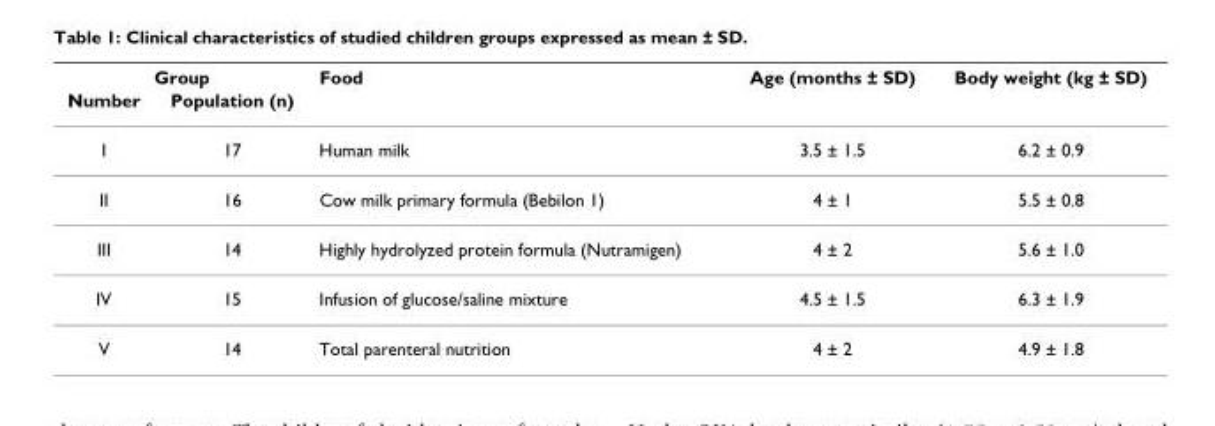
<table><thead><tr><td colspan="2">Group</td><td rowspan="2">Food</td><td rowspan="2">Age (months ± SD)</td><td rowspan="2">Body weight (kg ± SD)</td></tr><tr><td>Number</td><td>Population (n)</td></tr></thead><tbody><tr><td>I</td><td>17</td><td>Human milk</td><td>3.5 ± 1.5</td><td>6.2 ± 0.9</td></tr><tr><td>II</td><td>16</td><td>Cow milk primary formula (Bebilon 1)</td><td>4 ± 1</td><td>5.5 ± 0.8</td></tr><tr><td>III</td><td>14</td><td>Highly hydrolyzed protein formula (Nutramigen)</td><td>4 ± 2</td><td>5.6 ± 1.0</td></tr><tr><td>IV</td><td>15</td><td>Infusion of glucose/saline mixture</td><td>4.5 ± 1.5</td><td>6.3 ± 1.9</td></tr><tr><td>V</td><td>14</td><td>Total parenteral nutrition</td><td>4 ± 2</td><td>4.9 ± 1.8</td></tr></tbody></table>